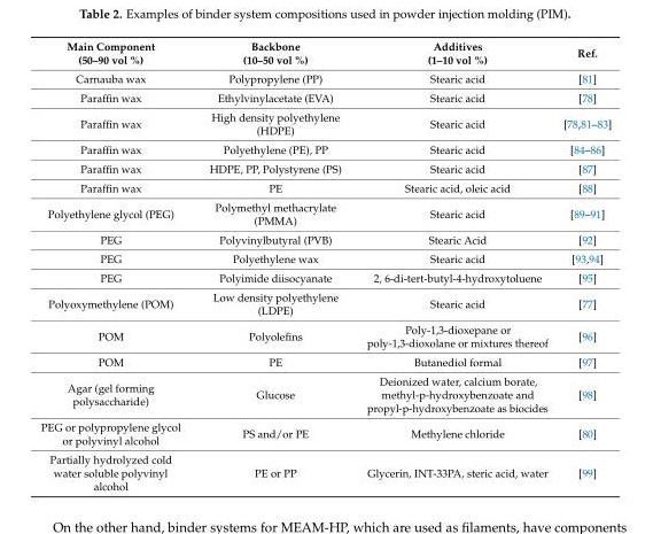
<table><thead><tr><td>Main Component (50–90 vol %)</td><td>Backbone (10–50 vol %)</td><td>Additives (1–10 vol %)</td><td>Ref.</td></tr></thead><tbody><tr><td>Carnauba wax</td><td>Polypropylene (PP)</td><td>Stearic acid</td><td>[81]</td></tr><tr><td>Paraffin wax</td><td>Ethylvinylacetate (EVA)</td><td>Stearic acid</td><td>[78]</td></tr><tr><td>Paraffin wax</td><td>High density polyethylene (HDPE)</td><td>Stearic acid</td><td>[78,81–83]</td></tr><tr><td>Paraffin wax</td><td>Polyethylene (PE), PP</td><td>Stearic acid</td><td>[84–86]</td></tr><tr><td>Paraffin wax</td><td>HDPE, PP, Polystyrene (PS)</td><td>Stearic acid</td><td>[87]</td></tr><tr><td>Paraffin wax</td><td>PE</td><td>Stearic acid, oleic acid</td><td>[88]</td></tr><tr><td>Polyethylene glycol (PEG)</td><td>Polymethyl methacrylate (PMMA)</td><td>Stearic acid</td><td>[89–91]</td></tr><tr><td>PEG</td><td>Polyvinylbutyral (PVB)</td><td>Stearic Acid</td><td>[92]</td></tr><tr><td>PEG</td><td>Polyethylene wax</td><td>Stearic acid</td><td>[93,94]</td></tr><tr><td>PEG</td><td>Polyimide diisocyanate</td><td>2, 6-di-tert-butyl-4-hydroxytoluene</td><td>[95]</td></tr><tr><td>Polyoxymethylene (POM)</td><td>Low density polyethylene (LDPE)</td><td>Stearic acid</td><td>[77]</td></tr><tr><td>POM</td><td>Polyolefins</td><td>Poly-1,3-dioxepane or poly-1,3-dioxolane or mixtures thereof</td><td>[96]</td></tr><tr><td>POM</td><td>PE</td><td>Butanediol formal</td><td>[97]</td></tr><tr><td>Agar (gel forming polysaccharide)</td><td>Glucose</td><td>Deionized water, calcium borate, methyl-p-hydroxybenzoate and propyl-p-hydroxybenzoate as biocides</td><td>[98]</td></tr><tr><td>PEG or polypropylene glycol or polyvinyl alcohol</td><td>PS and/or PE</td><td>Methylene chloride</td><td>[80]</td></tr><tr><td>Partially hydrolyzed cold water soluble polyvinyl alcohol</td><td>PE or PP</td><td>Glycerin, INT-33PA, steric acid, water</td><td>[99]</td></tr></tbody></table>